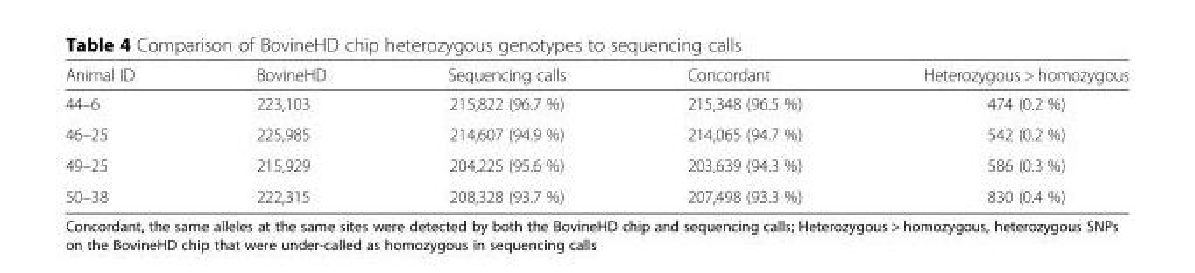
<table><thead><tr><td>Animal ID</td><td>BovineHD</td><td>Sequencing calls</td><td>Concordant</td><td>Heterozygous &gt; homozygous</td></tr></thead><tbody><tr><td>44–6</td><td>223,103</td><td>215,822 (96.7 %)</td><td>215,348 (96.5 %)</td><td>474 (0.2 %)</td></tr><tr><td>46–25</td><td>225,985</td><td>214,607 (94.9 %)</td><td>214,065 (94.7 %)</td><td>542 (0.2 %)</td></tr><tr><td>49–25</td><td>215,929</td><td>204,225 (95.6 %)</td><td>203,639 (94.3 %)</td><td>586 (0.3 %)</td></tr><tr><td>50–38</td><td>222,315</td><td>208,328 (93.7 %)</td><td>207,498 (93.3 %)</td><td>830 (0.4 %)</td></tr></tbody></table>